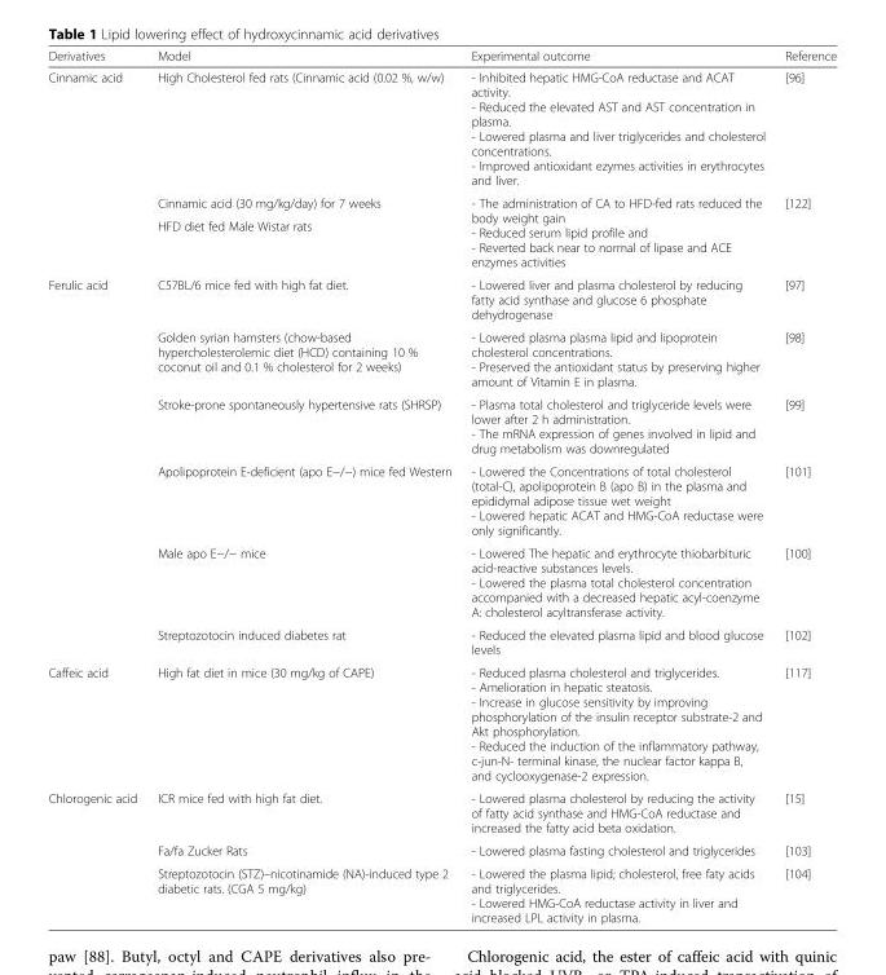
<table><thead><tr><td>Derivatives</td><td>Model</td><td>Experimental outcome</td><td>Reference</td></tr></thead><tbody><tr><td rowspan="3">Cinnamic acid</td><td>High Cholesterol fed rats (Cinnamic acid (0.02 %, w/w)</td><td>- Inhibited hepatic HMG-CoA reductase and ACAT activity. - Reduced the elevated AST and AST concentration in plasma. - Lowered plasma and liver triglycerides and cholesterol concentrations. - Improved antioxidant ezymes activities in erythrocytes and liver.</td><td>[96]</td></tr><tr><td>Cinnamic acid (30 mg/kg/day) for 7 weeks</td><td rowspan="2">- The administration of CA to HFD-fed rats reduced the body weight gain - Reduced serum lipid profile and - Reverted back near to normal of lipase and ACE enzymes activities</td><td rowspan="2">[122]</td></tr><tr><td>HFD diet fed Male Wistar rats</td></tr><tr><td rowspan="6">Ferulic acid</td><td>C57BL/6 mice fed with high fat diet.</td><td>- Lowered liver and plasma cholesterol by reducing fatty acid synthase and glucose 6 phosphate dehydrogenase</td><td>[97]</td></tr><tr><td>Golden syrian hamsters (chow-based hypercholesterolemic diet (HCD) containing 10 % coconut oil and 0.1 % cholesterol for 2 weeks)</td><td>- Lowered plasma plasma lipid and lipoprotein cholesterol concentrations. - Preserved the antioxidant status by preserving higher amount of Vitamin E in plasma.</td><td>[98]</td></tr><tr><td>Stroke-prone spontaneously hypertensive rats (SHRSP)</td><td>- Plasma total cholesterol and triglyceride levels were lower after 2 h administration. - The mRNA expression of genes involved in lipid and drug metabolism was downregulated</td><td>[99]</td></tr><tr><td>Apolipoprotein E-deficient (apo E−/−) mice fed Western</td><td>- Lowered the Concentrations of total cholesterol (total-C), apolipoprotein B (apo B) in the plasma and epididymal adipose tissue wet weight - Lowered hepatic ACAT and HMG-CoA reductase were only significantly.</td><td>[101]</td></tr><tr><td>Male apo E−/− mice</td><td>- Lowered The hepatic and erythrocyte thiobarbituric acid-reactive substances levels. - Lowered the plasma total cholesterol concentration accompanied with a decreased hepatic acyl-coenzyme A: cholesterol acyltransferase activity.</td><td>[100]</td></tr><tr><td>Streptozotocin induced diabetes rat</td><td>- Reduced the elevated plasma lipid and blood glucose levels</td><td>[102]</td></tr><tr><td>Caffeic acid</td><td>High fat diet in mice (30 mg/kg of CAPE)</td><td>- Reduced plasma cholesterol and triglycerides. - Amelioration in hepatic steatosis. - Increase in glucose sensitivity by improving phosphorylation of the insulin receptor substrate-2 and Akt phosphorylation. - Reduced the induction of the inflammatory pathway, c-jun-N- terminal kinase, the nuclear factor kappa B, and cyclooxygenase-2 expression.</td><td>[117]</td></tr><tr><td rowspan="3">Chlorogenic acid</td><td>ICR mice fed with high fat diet.</td><td>- Lowered plasma cholesterol by reducing the activity of fatty acid synthase and HMG-CoA reductase and increased the fatty acid beta oxidation.</td><td>[15]</td></tr><tr><td>Fa/fa Zucker Rats</td><td>- Lowered plasma fasting cholesterol and triglycerides</td><td>[103]</td></tr><tr><td>Streptozotocin (STZ)–nicotinamide (NA)-induced type 2 diabetic rats. (CGA 5 mg/kg)</td><td>- Lowered the plasma lipid; cholesterol, free faty acids and triglycerides. - Lowered HMG-CoA reductase activity in liver and increased LPL activity in plasma.</td><td>[104]</td></tr></tbody></table>